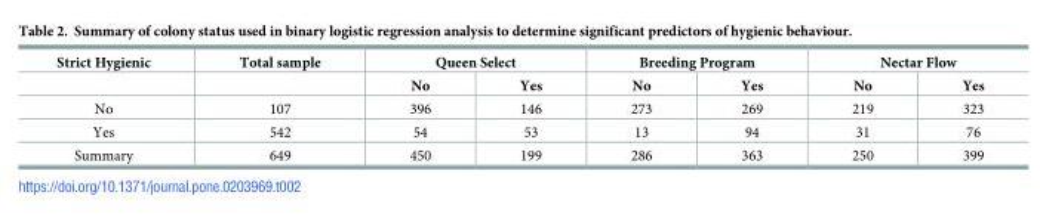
<table><thead><tr><td rowspan="2">Strict Hygienic</td><td rowspan="2">Total sample</td><td colspan="2">Queen Select</td><td colspan="2">Breeding Program</td><td colspan="2">Nectar Flow</td></tr><tr><td>No</td><td>Yes</td><td>No</td><td>Yes</td><td>No</td><td>Yes</td></tr></thead><tbody><tr><td>No</td><td>107</td><td>396</td><td>146</td><td>273</td><td>269</td><td>219</td><td>323</td></tr><tr><td>Yes</td><td>542</td><td>54</td><td>53</td><td>13</td><td>94</td><td>31</td><td>76</td></tr><tr><td>Summary</td><td>649</td><td>450</td><td>199</td><td>286</td><td>363</td><td>250</td><td>399</td></tr></tbody></table>